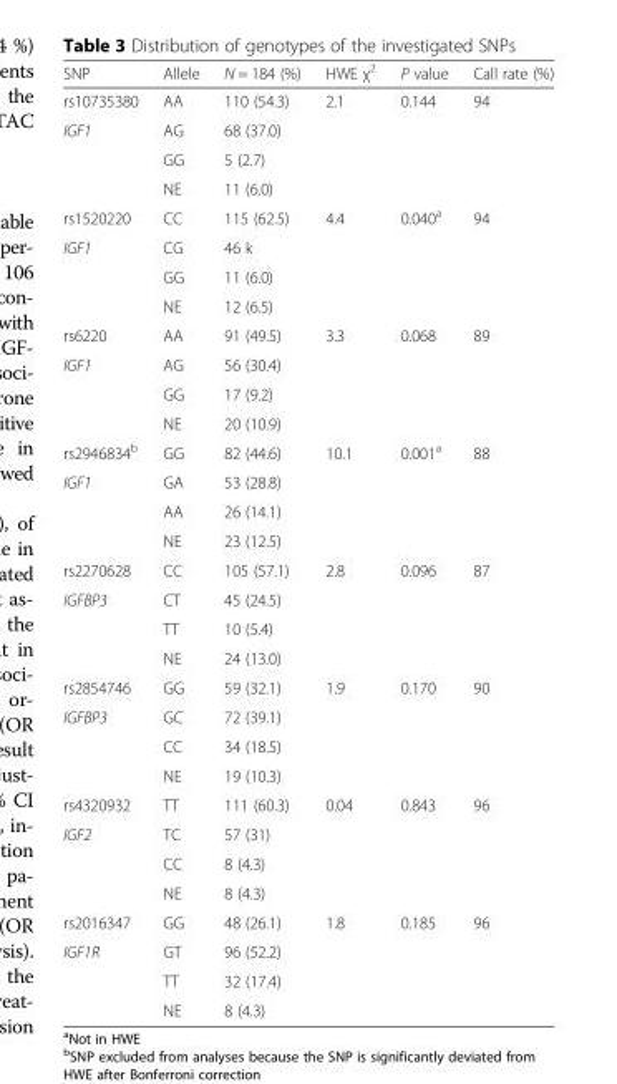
<table><thead><tr><td>SNP</td><td>Allele</td><td>N = 184 (%)</td><td>HWE χ<sup>2</sup></td><td>P value</td><td>Call rate (%)</td></tr></thead><tbody><tr><td>rs10735380</td><td>AA</td><td>110 (54.3)</td><td>2.1</td><td>0.144</td><td>94</td></tr><tr><td rowspan="3">IGF1</td><td>AG</td><td>68 (37.0)</td><td></td><td></td><td></td></tr><tr><td>GG</td><td>5 (2.7)</td><td></td><td></td><td></td></tr><tr><td>NE</td><td>11 (6.0)</td><td></td><td></td><td></td></tr><tr><td>rs1520220</td><td>CC</td><td>115 (62.5)</td><td>4.4</td><td>0.040<sup>a</sup></td><td>94</td></tr><tr><td rowspan="3">IGF1</td><td>CG</td><td>46 k</td><td></td><td></td><td></td></tr><tr><td>GG</td><td>11 (6.0)</td><td></td><td></td><td></td></tr><tr><td>NE</td><td>12 (6.5)</td><td></td><td></td><td></td></tr><tr><td>rs6220</td><td>AA</td><td>91 (49.5)</td><td>3.3</td><td>0.068</td><td>89</td></tr><tr><td rowspan="3">IGF1</td><td>AG</td><td>56 (30.4)</td><td></td><td></td><td></td></tr><tr><td>GG</td><td>17 (9.2)</td><td></td><td></td><td></td></tr><tr><td>NE</td><td>20 (10.9)</td><td></td><td></td><td></td></tr><tr><td>rs2946834<sup>b</sup></td><td>GG</td><td>82 (44.6)</td><td>10.1</td><td>0.001<sup>a</sup></td><td>88</td></tr><tr><td rowspan="3">IGF1</td><td>GA</td><td>53 (28.8)</td><td></td><td></td><td></td></tr><tr><td>AA</td><td>26 (14.1)</td><td></td><td></td><td></td></tr><tr><td>NE</td><td>23 (12.5)</td><td></td><td></td><td></td></tr><tr><td>rs2270628</td><td>CC</td><td>105 (57.1)</td><td>2.8</td><td>0.096</td><td>87</td></tr><tr><td rowspan="3">IGFBP3</td><td>CT</td><td>45 (24.5)</td><td></td><td></td><td></td></tr><tr><td>TT</td><td>10 (5.4)</td><td></td><td></td><td></td></tr><tr><td>NE</td><td>24 (13.0)</td><td></td><td></td><td></td></tr><tr><td>rs2854746</td><td>GG</td><td>59 (32.1)</td><td>1.9</td><td>0.170</td><td>90</td></tr><tr><td rowspan="3">IGFBP3</td><td>GC</td><td>72 (39.1)</td><td></td><td></td><td></td></tr><tr><td>CC</td><td>34 (18.5)</td><td></td><td></td><td></td></tr><tr><td>NE</td><td>19 (10.3)</td><td></td><td></td><td></td></tr><tr><td>rs4320932</td><td>TT</td><td>111 (60.3)</td><td>0.04</td><td>0.843</td><td>96</td></tr><tr><td rowspan="3">IGF2</td><td>TC</td><td>57 (31)</td><td></td><td></td><td></td></tr><tr><td>CC</td><td>8 (4.3)</td><td></td><td></td><td></td></tr><tr><td>NE</td><td>8 (4.3)</td><td></td><td></td><td></td></tr><tr><td>rs2016347</td><td>GG</td><td>48 (26.1)</td><td>1.8</td><td>0.185</td><td>96</td></tr><tr><td rowspan="3">IGF1R</td><td>GT</td><td>96 (52.2)</td><td></td><td></td><td></td></tr><tr><td>TT</td><td>32 (17.4)</td><td></td><td></td><td></td></tr><tr><td>NE</td><td>8 (4.3)</td><td></td><td></td><td></td></tr></tbody></table>